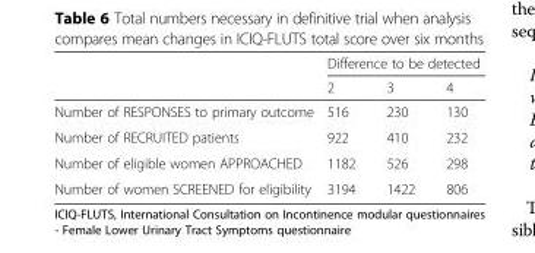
<table><thead><tr><td rowspan="2"></td><td colspan="3">Difference to be detected</td></tr><tr><td>2</td><td>3</td><td>4</td></tr></thead><tbody><tr><td>Number of RESPONSES to primary outcome</td><td>516</td><td>230</td><td>130</td></tr><tr><td>Number of RECRUITED patients</td><td>922</td><td>410</td><td>232</td></tr><tr><td>Number of eligible women APPROACHED</td><td>1182</td><td>526</td><td>298</td></tr><tr><td>Number of women SCREENED for eligibility</td><td>3194</td><td>1422</td><td>806</td></tr></tbody></table>